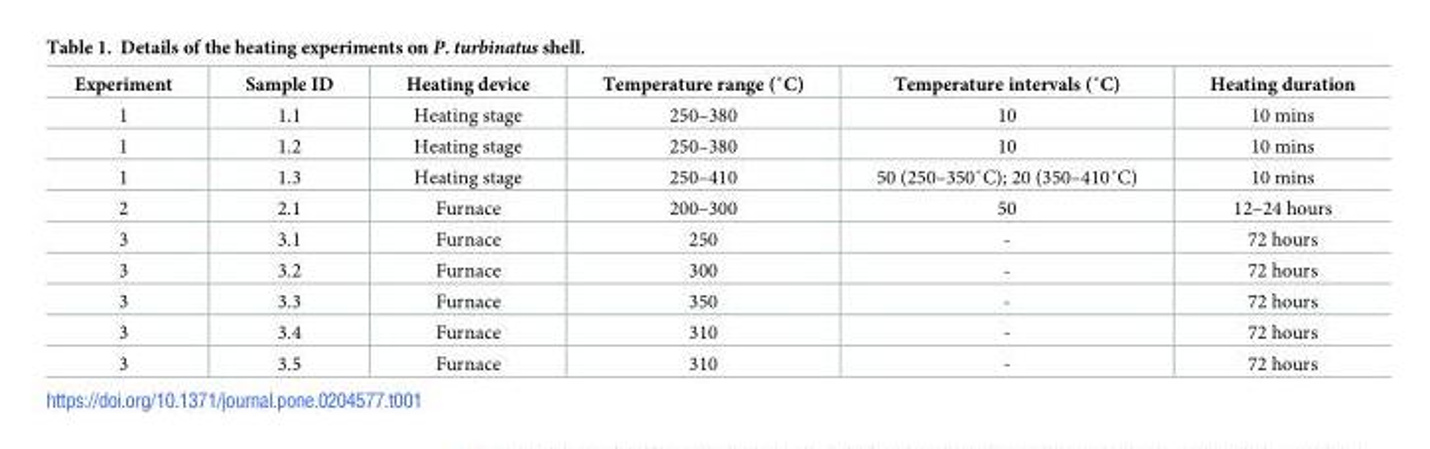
<table><thead><tr><td>Experiment</td><td>Sample ID</td><td>Heating device</td><td>Temperature range (˚C)</td><td>Temperature intervals (˚C)</td><td>Heating duration</td></tr></thead><tbody><tr><td>1</td><td>1.1</td><td>Heating stage</td><td>250–380</td><td>10</td><td>10 mins</td></tr><tr><td>1</td><td>1.2</td><td>Heating stage</td><td>250–380</td><td>10</td><td>10 mins</td></tr><tr><td>1</td><td>1.3</td><td>Heating stage</td><td>250–410</td><td>50 (250–350˚C); 20 (350–410˚C)</td><td>10 mins</td></tr><tr><td>2</td><td>2.1</td><td>Furnace</td><td>200–300</td><td>50</td><td>12–24 hours</td></tr><tr><td>3</td><td>3.1</td><td>Furnace</td><td>250</td><td>-</td><td>72 hours</td></tr><tr><td>3</td><td>3.2</td><td>Furnace</td><td>300</td><td>-</td><td>72 hours</td></tr><tr><td>3</td><td>3.3</td><td>Furnace</td><td>350</td><td>-</td><td>72 hours</td></tr><tr><td>3</td><td>3.4</td><td>Furnace</td><td>310</td><td>-</td><td>72 hours</td></tr><tr><td>3</td><td>3.5</td><td>Furnace</td><td>310</td><td>-</td><td>72 hours</td></tr></tbody></table>